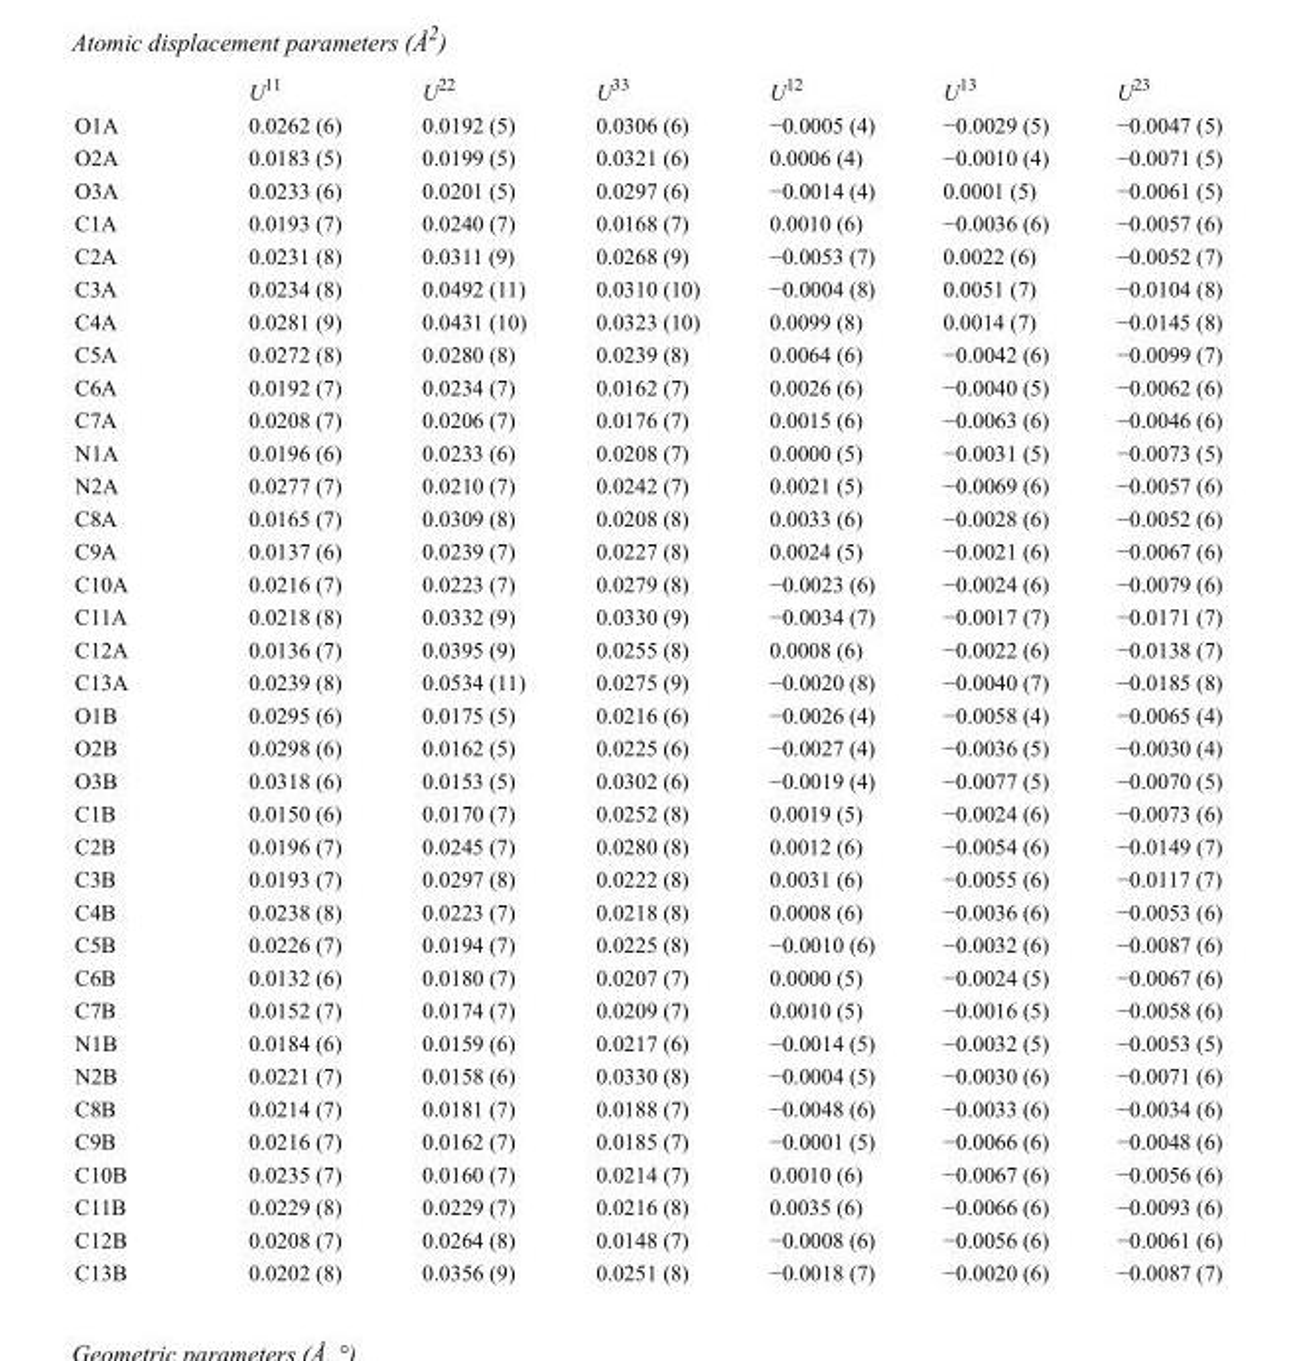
<table><thead><tr><td></td><td>U<sup>11</sup></td><td>U<sup>22</sup></td><td>U<sup>33</sup></td><td>U<sup>12</sup></td><td>U<sup>13</sup></td><td>U<sup>23</sup></td></tr></thead><tbody><tr><td>O1A</td><td>0.0262 (6)</td><td>0.0192 (5)</td><td>0.0306 (6)</td><td>−0.0005 (4)</td><td>−0.0029 (5)</td><td>−0.0047 (5)</td></tr><tr><td>O2A</td><td>0.0183 (5)</td><td>0.0199 (5)</td><td>0.0321 (6)</td><td>0.0006 (4)</td><td>−0.0010 (4)</td><td>−0.0071 (5)</td></tr><tr><td>O3A</td><td>0.0233 (6)</td><td>0.0201 (5)</td><td>0.0297 (6)</td><td>−0.0014 (4)</td><td>0.0001 (5)</td><td>−0.0061 (5)</td></tr><tr><td>C1A</td><td>0.0193 (7)</td><td>0.0240 (7)</td><td>0.0168 (7)</td><td>0.0010 (6)</td><td>−0.0036 (6)</td><td>−0.0057 (6)</td></tr><tr><td>C2A</td><td>0.0231 (8)</td><td>0.0311 (9)</td><td>0.0268 (9)</td><td>−0.0053 (7)</td><td>0.0022 (6)</td><td>−0.0052 (7)</td></tr><tr><td>C3A</td><td>0.0234 (8)</td><td>0.0492 (11)</td><td>0.0310 (10)</td><td>−0.0004 (8)</td><td>0.0051 (7)</td><td>−0.0104 (8)</td></tr><tr><td>C4A</td><td>0.0281 (9)</td><td>0.0431 (10)</td><td>0.0323 (10)</td><td>0.0099 (8)</td><td>0.0014 (7)</td><td>−0.0145 (8)</td></tr><tr><td>C5A</td><td>0.0272 (8)</td><td>0.0280 (8)</td><td>0.0239 (8)</td><td>0.0064 (6)</td><td>−0.0042 (6)</td><td>−0.0099 (7)</td></tr><tr><td>C6A</td><td>0.0192 (7)</td><td>0.0234 (7)</td><td>0.0162 (7)</td><td>0.0026 (6)</td><td>−0.0040 (5)</td><td>−0.0062 (6)</td></tr><tr><td>C7A</td><td>0.0208 (7)</td><td>0.0206 (7)</td><td>0.0176 (7)</td><td>0.0015 (6)</td><td>−0.0063 (6)</td><td>−0.0046 (6)</td></tr><tr><td>N1A</td><td>0.0196 (6)</td><td>0.0233 (6)</td><td>0.0208 (7)</td><td>0.0000 (5)</td><td>−0.0031 (5)</td><td>−0.0073 (5)</td></tr><tr><td>N2A</td><td>0.0277 (7)</td><td>0.0210 (7)</td><td>0.0242 (7)</td><td>0.0021 (5)</td><td>−0.0069 (6)</td><td>−0.0057 (6)</td></tr><tr><td>C8A</td><td>0.0165 (7)</td><td>0.0309 (8)</td><td>0.0208 (8)</td><td>0.0033 (6)</td><td>−0.0028 (6)</td><td>−0.0052 (6)</td></tr><tr><td>C9A</td><td>0.0137 (6)</td><td>0.0239 (7)</td><td>0.0227 (8)</td><td>0.0024 (5)</td><td>−0.0021 (6)</td><td>−0.0067 (6)</td></tr><tr><td>C10A</td><td>0.0216 (7)</td><td>0.0223 (7)</td><td>0.0279 (8)</td><td>−0.0023 (6)</td><td>−0.0024 (6)</td><td>−0.0079 (6)</td></tr><tr><td>C11A</td><td>0.0218 (8)</td><td>0.0332 (9)</td><td>0.0330 (9)</td><td>−0.0034 (7)</td><td>−0.0017 (7)</td><td>−0.0171 (7)</td></tr><tr><td>C12A</td><td>0.0136 (7)</td><td>0.0395 (9)</td><td>0.0255 (8)</td><td>0.0008 (6)</td><td>−0.0022 (6)</td><td>−0.0138 (7)</td></tr><tr><td>C13A</td><td>0.0239 (8)</td><td>0.0534 (11)</td><td>0.0275 (9)</td><td>−0.0020 (8)</td><td>−0.0040 (7)</td><td>−0.0185 (8)</td></tr><tr><td>O1B</td><td>0.0295 (6)</td><td>0.0175 (5)</td><td>0.0216 (6)</td><td>−0.0026 (4)</td><td>−0.0058 (4)</td><td>−0.0065 (4)</td></tr><tr><td>O2B</td><td>0.0298 (6)</td><td>0.0162 (5)</td><td>0.0225 (6)</td><td>−0.0027 (4)</td><td>−0.0036 (5)</td><td>−0.0030 (4)</td></tr><tr><td>O3B</td><td>0.0318 (6)</td><td>0.0153 (5)</td><td>0.0302 (6)</td><td>−0.0019 (4)</td><td>−0.0077 (5)</td><td>−0.0070 (5)</td></tr><tr><td>C1B</td><td>0.0150 (6)</td><td>0.0170 (7)</td><td>0.0252 (8)</td><td>0.0019 (5)</td><td>−0.0024 (6)</td><td>−0.0073 (6)</td></tr><tr><td>C2B</td><td>0.0196 (7)</td><td>0.0245 (7)</td><td>0.0280 (8)</td><td>0.0012 (6)</td><td>−0.0054 (6)</td><td>−0.0149 (7)</td></tr><tr><td>C3B</td><td>0.0193 (7)</td><td>0.0297 (8)</td><td>0.0222 (8)</td><td>0.0031 (6)</td><td>−0.0055 (6)</td><td>−0.0117 (7)</td></tr><tr><td>C4B</td><td>0.0238 (8)</td><td>0.0223 (7)</td><td>0.0218 (8)</td><td>0.0008 (6)</td><td>−0.0036 (6)</td><td>−0.0053 (6)</td></tr><tr><td>C5B</td><td>0.0226 (7)</td><td>0.0194 (7)</td><td>0.0225 (8)</td><td>−0.0010 (6)</td><td>−0.0032 (6)</td><td>−0.0087 (6)</td></tr><tr><td>C6B</td><td>0.0132 (6)</td><td>0.0180 (7)</td><td>0.0207 (7)</td><td>0.0000 (5)</td><td>−0.0024 (5)</td><td>−0.0067 (6)</td></tr><tr><td>C7B</td><td>0.0152 (7)</td><td>0.0174 (7)</td><td>0.0209 (7)</td><td>0.0010 (5)</td><td>−0.0016 (5)</td><td>−0.0058 (6)</td></tr><tr><td>N1B</td><td>0.0184 (6)</td><td>0.0159 (6)</td><td>0.0217 (6)</td><td>−0.0014 (5)</td><td>−0.0032 (5)</td><td>−0.0053 (5)</td></tr><tr><td>N2B</td><td>0.0221 (7)</td><td>0.0158 (6)</td><td>0.0330 (8)</td><td>−0.0004 (5)</td><td>−0.0030 (6)</td><td>−0.0071 (6)</td></tr><tr><td>C8B</td><td>0.0214 (7)</td><td>0.0181 (7)</td><td>0.0188 (7)</td><td>−0.0048 (6)</td><td>−0.0033 (6)</td><td>−0.0034 (6)</td></tr><tr><td>C9B</td><td>0.0216 (7)</td><td>0.0162 (7)</td><td>0.0185 (7)</td><td>−0.0001 (5)</td><td>−0.0066 (6)</td><td>−0.0048 (6)</td></tr><tr><td>C10B</td><td>0.0235 (7)</td><td>0.0160 (7)</td><td>0.0214 (7)</td><td>0.0010 (6)</td><td>−0.0067 (6)</td><td>−0.0056 (6)</td></tr><tr><td>C11B</td><td>0.0229 (8)</td><td>0.0229 (7)</td><td>0.0216 (8)</td><td>0.0035 (6)</td><td>−0.0066 (6)</td><td>−0.0093 (6)</td></tr><tr><td>C12B</td><td>0.0208 (7)</td><td>0.0264 (8)</td><td>0.0148 (7)</td><td>−0.0008 (6)</td><td>−0.0056 (6)</td><td>−0.0061 (6)</td></tr><tr><td>C13B</td><td>0.0202 (8)</td><td>0.0356 (9)</td><td>0.0251 (8)</td><td>−0.0018 (7)</td><td>−0.0020 (6)</td><td>−0.0087 (7)</td></tr></tbody></table>